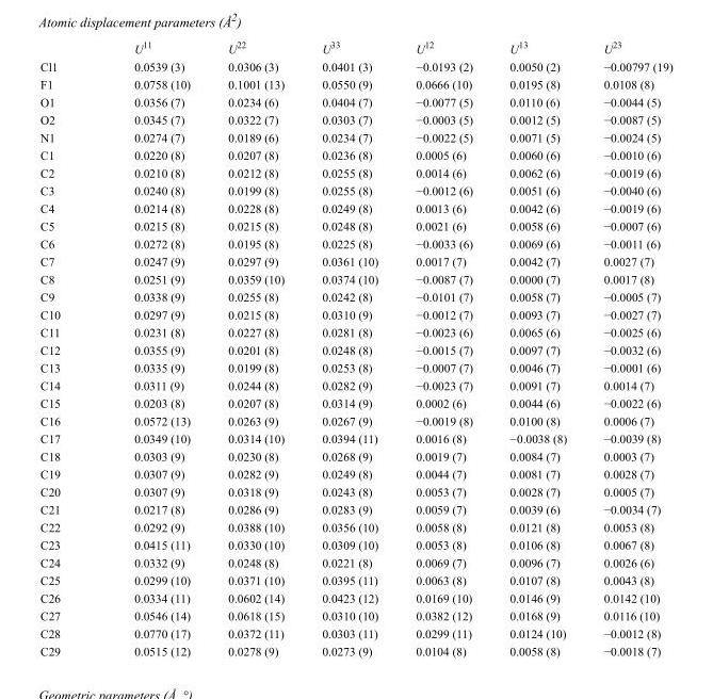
<table><thead><tr><td></td><td>U<sup>11</sup></td><td>U<sup>22</sup></td><td>U<sup>33</sup></td><td>U<sup>12</sup></td><td>U<sup>13</sup></td><td>U<sup>23</sup></td></tr></thead><tbody><tr><td>Cl1</td><td>0.0539 (3)</td><td>0.0306 (3)</td><td>0.0401 (3)</td><td>−0.0193 (2)</td><td>0.0050 (2)</td><td>−0.00797 (19)</td></tr><tr><td>F1</td><td>0.0758 (10)</td><td>0.1001 (13)</td><td>0.0550 (9)</td><td>0.0666 (10)</td><td>0.0195 (8)</td><td>0.0108 (8)</td></tr><tr><td>O1</td><td>0.0356 (7)</td><td>0.0234 (6)</td><td>0.0404 (7)</td><td>−0.0077 (5)</td><td>0.0110 (6)</td><td>−0.0044 (5)</td></tr><tr><td>O2</td><td>0.0345 (7)</td><td>0.0322 (7)</td><td>0.0303 (7)</td><td>−0.0003 (5)</td><td>0.0012 (5)</td><td>−0.0087 (5)</td></tr><tr><td>N1</td><td>0.0274 (7)</td><td>0.0189 (6)</td><td>0.0234 (7)</td><td>−0.0022 (5)</td><td>0.0071 (5)</td><td>−0.0024 (5)</td></tr><tr><td>C1</td><td>0.0220 (8)</td><td>0.0207 (8)</td><td>0.0236 (8)</td><td>0.0005 (6)</td><td>0.0060 (6)</td><td>−0.0010 (6)</td></tr><tr><td>C2</td><td>0.0210 (8)</td><td>0.0212 (8)</td><td>0.0255 (8)</td><td>0.0014 (6)</td><td>0.0062 (6)</td><td>−0.0019 (6)</td></tr><tr><td>C3</td><td>0.0240 (8)</td><td>0.0199 (8)</td><td>0.0255 (8)</td><td>−0.0012 (6)</td><td>0.0051 (6)</td><td>−0.0040 (6)</td></tr><tr><td>C4</td><td>0.0214 (8)</td><td>0.0228 (8)</td><td>0.0249 (8)</td><td>0.0013 (6)</td><td>0.0042 (6)</td><td>−0.0019 (6)</td></tr><tr><td>C5</td><td>0.0215 (8)</td><td>0.0215 (8)</td><td>0.0248 (8)</td><td>0.0021 (6)</td><td>0.0058 (6)</td><td>−0.0007 (6)</td></tr><tr><td>C6</td><td>0.0272 (8)</td><td>0.0195 (8)</td><td>0.0225 (8)</td><td>−0.0033 (6)</td><td>0.0069 (6)</td><td>−0.0011 (6)</td></tr><tr><td>C7</td><td>0.0247 (9)</td><td>0.0297 (9)</td><td>0.0361 (10)</td><td>0.0017 (7)</td><td>0.0042 (7)</td><td>0.0027 (7)</td></tr><tr><td>C8</td><td>0.0251 (9)</td><td>0.0359 (10)</td><td>0.0374 (10)</td><td>−0.0087 (7)</td><td>0.0000 (7)</td><td>0.0017 (8)</td></tr><tr><td>C9</td><td>0.0338 (9)</td><td>0.0255 (8)</td><td>0.0242 (8)</td><td>−0.0101 (7)</td><td>0.0058 (7)</td><td>−0.0005 (7)</td></tr><tr><td>C10</td><td>0.0297 (9)</td><td>0.0215 (8)</td><td>0.0310 (9)</td><td>−0.0012 (7)</td><td>0.0093 (7)</td><td>−0.0027 (7)</td></tr><tr><td>C11</td><td>0.0231 (8)</td><td>0.0227 (8)</td><td>0.0281 (8)</td><td>−0.0023 (6)</td><td>0.0065 (6)</td><td>−0.0025 (6)</td></tr><tr><td>C12</td><td>0.0355 (9)</td><td>0.0201 (8)</td><td>0.0248 (8)</td><td>−0.0015 (7)</td><td>0.0097 (7)</td><td>−0.0032 (6)</td></tr><tr><td>C13</td><td>0.0335 (9)</td><td>0.0199 (8)</td><td>0.0253 (8)</td><td>−0.0007 (7)</td><td>0.0046 (7)</td><td>−0.0001 (6)</td></tr><tr><td>C14</td><td>0.0311 (9)</td><td>0.0244 (8)</td><td>0.0282 (9)</td><td>−0.0023 (7)</td><td>0.0091 (7)</td><td>0.0014 (7)</td></tr><tr><td>C15</td><td>0.0203 (8)</td><td>0.0207 (8)</td><td>0.0314 (9)</td><td>0.0002 (6)</td><td>0.0044 (6)</td><td>−0.0022 (6)</td></tr><tr><td>C16</td><td>0.0572 (13)</td><td>0.0263 (9)</td><td>0.0267 (9)</td><td>−0.0019 (8)</td><td>0.0100 (8)</td><td>0.0006 (7)</td></tr><tr><td>C17</td><td>0.0349 (10)</td><td>0.0314 (10)</td><td>0.0394 (11)</td><td>0.0016 (8)</td><td>−0.0038 (8)</td><td>−0.0039 (8)</td></tr><tr><td>C18</td><td>0.0303 (9)</td><td>0.0230 (8)</td><td>0.0268 (9)</td><td>0.0019 (7)</td><td>0.0084 (7)</td><td>0.0003 (7)</td></tr><tr><td>C19</td><td>0.0307 (9)</td><td>0.0282 (9)</td><td>0.0249 (8)</td><td>0.0044 (7)</td><td>0.0081 (7)</td><td>0.0028 (7)</td></tr><tr><td>C20</td><td>0.0307 (9)</td><td>0.0318 (9)</td><td>0.0243 (8)</td><td>0.0053 (7)</td><td>0.0028 (7)</td><td>0.0005 (7)</td></tr><tr><td>C21</td><td>0.0217 (8)</td><td>0.0286 (9)</td><td>0.0283 (9)</td><td>0.0059 (7)</td><td>0.0039 (6)</td><td>−0.0034 (7)</td></tr><tr><td>C22</td><td>0.0292 (9)</td><td>0.0388 (10)</td><td>0.0356 (10)</td><td>0.0058 (8)</td><td>0.0121 (8)</td><td>0.0053 (8)</td></tr><tr><td>C23</td><td>0.0415 (11)</td><td>0.0330 (10)</td><td>0.0309 (10)</td><td>0.0053 (8)</td><td>0.0106 (8)</td><td>0.0067 (8)</td></tr><tr><td>C24</td><td>0.0332 (9)</td><td>0.0248 (8)</td><td>0.0221 (8)</td><td>0.0069 (7)</td><td>0.0096 (7)</td><td>0.0026 (6)</td></tr><tr><td>C25</td><td>0.0299 (10)</td><td>0.0371 (10)</td><td>0.0395 (11)</td><td>0.0063 (8)</td><td>0.0107 (8)</td><td>0.0043 (8)</td></tr><tr><td>C26</td><td>0.0334 (11)</td><td>0.0602 (14)</td><td>0.0423 (12)</td><td>0.0169 (10)</td><td>0.0146 (9)</td><td>0.0142 (10)</td></tr><tr><td>C27</td><td>0.0546 (14)</td><td>0.0618 (15)</td><td>0.0310 (10)</td><td>0.0382 (12)</td><td>0.0168 (9)</td><td>0.0116 (10)</td></tr><tr><td>C28</td><td>0.0770 (17)</td><td>0.0372 (11)</td><td>0.0303 (11)</td><td>0.0299 (11)</td><td>0.0124 (10)</td><td>−0.0012 (8)</td></tr><tr><td>C29</td><td>0.0515 (12)</td><td>0.0278 (9)</td><td>0.0273 (9)</td><td>0.0104 (8)</td><td>0.0058 (8)</td><td>−0.0018 (7)</td></tr></tbody></table>